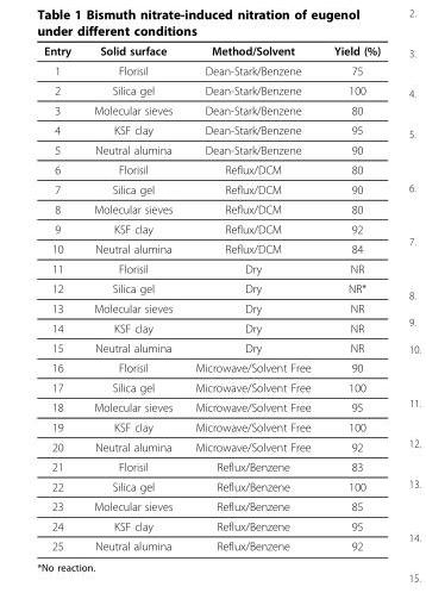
<table><thead><tr><td>Entry</td><td>Solid surface</td><td>Method/Solvent</td><td>Yield (%)</td></tr></thead><tbody><tr><td>1</td><td>Florisil</td><td>Dean-Stark/Benzene</td><td>75</td></tr><tr><td>2</td><td>Silica gel</td><td>Dean-Stark/Benzene</td><td>100</td></tr><tr><td>3</td><td>Molecular sieves</td><td>Dean-Stark/Benzene</td><td>80</td></tr><tr><td>4</td><td>KSF clay</td><td>Dean-Stark/Benzene</td><td>95</td></tr><tr><td>5</td><td>Neutral alumina</td><td>Dean-Stark/Benzene</td><td>90</td></tr><tr><td>6</td><td>Florisil</td><td>Reflux/DCM</td><td>80</td></tr><tr><td>7</td><td>Silica gel</td><td>Reflux/DCM</td><td>90</td></tr><tr><td>8</td><td>Molecular sieves</td><td>Reflux/DCM</td><td>80</td></tr><tr><td>9</td><td>KSF clay</td><td>Reflux/DCM</td><td>92</td></tr><tr><td>10</td><td>Neutral alumina</td><td>Reflux/DCM</td><td>84</td></tr><tr><td>11</td><td>Florisil</td><td>Dry</td><td>NR</td></tr><tr><td>12</td><td>Silica gel</td><td>Dry</td><td>NR*</td></tr><tr><td>13</td><td>Molecular sieves</td><td>Dry</td><td>NR</td></tr><tr><td>14</td><td>KSF clay</td><td>Dry</td><td>NR</td></tr><tr><td>15</td><td>Neutral alumina</td><td>Dry</td><td>NR</td></tr><tr><td>16</td><td>Florisil</td><td>Microwave/Solvent Free</td><td>90</td></tr><tr><td>17</td><td>Silica gel</td><td>Microwave/Solvent Free</td><td>100</td></tr><tr><td>18</td><td>Molecular sieves</td><td>Microwave/Solvent Free</td><td>95</td></tr><tr><td>19</td><td>KSF clay</td><td>Microwave/Solvent Free</td><td>100</td></tr><tr><td>20</td><td>Neutral alumina</td><td>Microwave/Solvent Free</td><td>92</td></tr><tr><td>21</td><td>Florisil</td><td>Reflux/Benzene</td><td>83</td></tr><tr><td>22</td><td>Silica gel</td><td>Reflux/Benzene</td><td>100</td></tr><tr><td>23</td><td>Molecular sieves</td><td>Reflux/Benzene</td><td>85</td></tr><tr><td>24</td><td>KSF clay</td><td>Reflux/Benzene</td><td>95</td></tr><tr><td>25</td><td>Neutral alumina</td><td>Reflux/Benzene</td><td>92</td></tr></tbody></table>